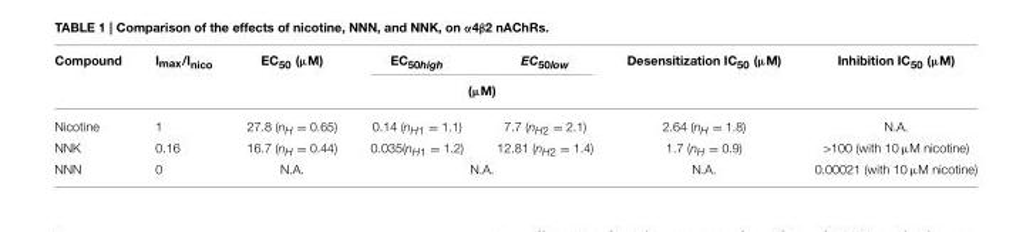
<table><thead><tr><td rowspan="2">Compound</td><td rowspan="2">I<sub>max</sub>/I<sub>nico</sub></td><td rowspan="2">EC<sub>50</sub> (µM)</td><td>EC<sub>50high</sub></td><td>EC<sub>50low</sub></td><td rowspan="2">Desensitization IC<sub>50</sub> (µM)</td><td rowspan="2">Inhibition IC<sub>50</sub> (µM)</td></tr><tr><td colspan="2">(µM)</td></tr></thead><tbody><tr><td>Nicotine</td><td>1</td><td>27.8 (n<sub>H</sub> = 0.65)</td><td>0.14 (n<sub>H1</sub> = 1.1)</td><td>7.7 (n<sub>H2</sub> = 2.1)</td><td>2.64 (n<sub>H</sub> = 1.8)</td><td>N.A.</td></tr><tr><td>NNK</td><td>0.16</td><td>16.7 (n<sub>H</sub> = 0.44)</td><td>0.035(n<sub>H1</sub> = 1.2)</td><td>12.81 (n<sub>H2</sub> = 1.4)</td><td>1.7 (n<sub>H</sub> = 0.9)</td><td>&gt;100 (with 10 µM nicotine)</td></tr><tr><td>NNN</td><td>0</td><td>N.A.</td><td colspan="2">N.A.</td><td>N.A.</td><td>0.00021 (with 10 µM nicotine)</td></tr></tbody></table>